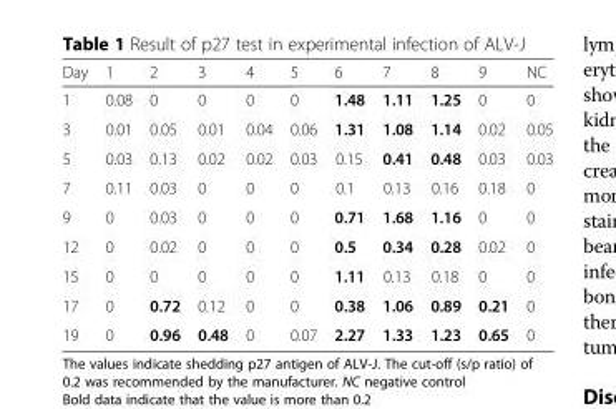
<table><thead><tr><td>Day</td><td>1</td><td>2</td><td>3</td><td>4</td><td>5</td><td>6</td><td>7</td><td>8</td><td>9</td><td>NC</td></tr></thead><tbody><tr><td>1</td><td>0.08</td><td>0</td><td>0</td><td>0</td><td>0</td><td>1.48</td><td>1.11</td><td>1.25</td><td>0</td><td>0</td></tr><tr><td>3</td><td>0.01</td><td>0.05</td><td>0.01</td><td>0.04</td><td>0.06</td><td>1.31</td><td>1.08</td><td>1.14</td><td>0.02</td><td>0.05</td></tr><tr><td>5</td><td>0.03</td><td>0.13</td><td>0.02</td><td>0.02</td><td>0.03</td><td>0.15</td><td>0.41</td><td>0.48</td><td>0.03</td><td>0.03</td></tr><tr><td>7</td><td>0.11</td><td>0.03</td><td>0</td><td>0</td><td>0</td><td>0.1</td><td>0.13</td><td>0.16</td><td>0.18</td><td>0</td></tr><tr><td>9</td><td>0</td><td>0.03</td><td>0</td><td>0</td><td>0</td><td>0.71</td><td>1.68</td><td>1.16</td><td>0</td><td>0</td></tr><tr><td>12</td><td>0</td><td>0.02</td><td>0</td><td>0</td><td>0</td><td>0.5</td><td>0.34</td><td>0.28</td><td>0.02</td><td>0</td></tr><tr><td>15</td><td>0</td><td>0</td><td>0</td><td>0</td><td>0</td><td>1.11</td><td>0.13</td><td>0.18</td><td>0</td><td>0</td></tr><tr><td>17</td><td>0</td><td>0.72</td><td>0.12</td><td>0</td><td>0</td><td>0.38</td><td>1.06</td><td>0.89</td><td>0.21</td><td>0</td></tr><tr><td>19</td><td>0</td><td>0.96</td><td>0.48</td><td>0</td><td>0.07</td><td>2.27</td><td>1.33</td><td>1.23</td><td>0.65</td><td>0</td></tr></tbody></table>